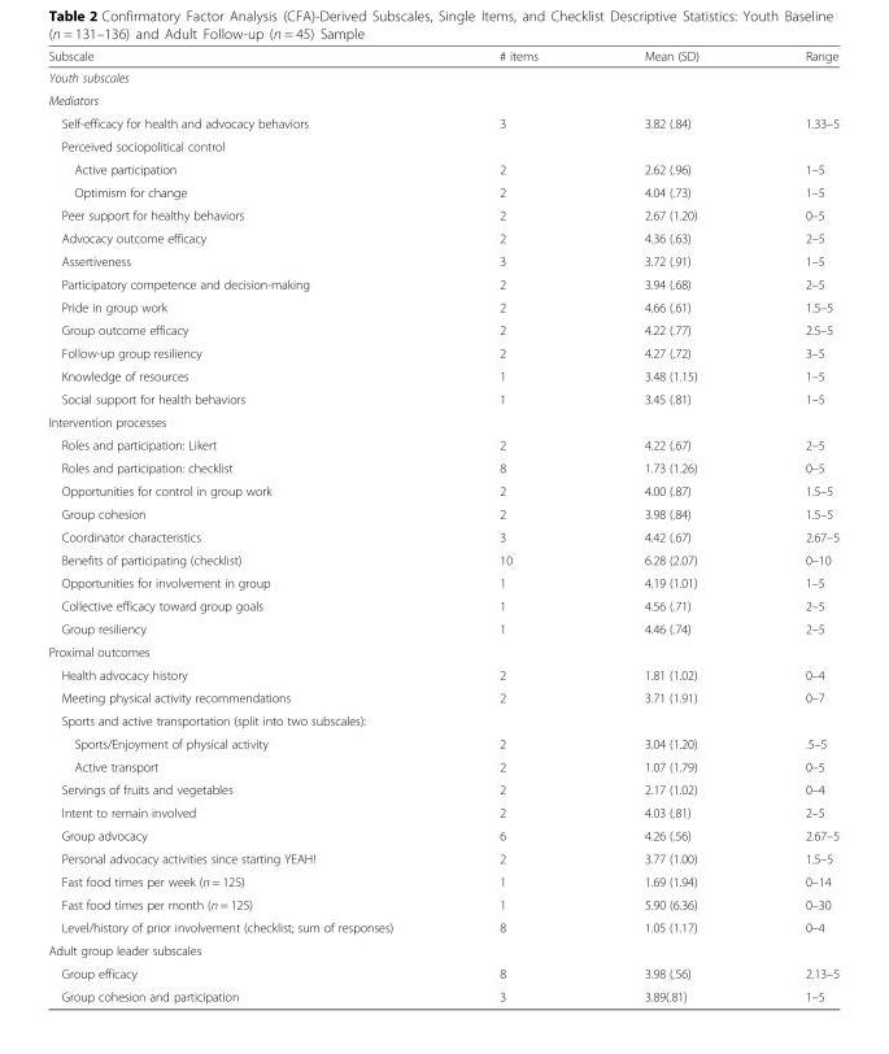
<table><thead><tr><td>Subscale</td><td># items</td><td>Mean (SD)</td><td>Range</td></tr></thead><tbody><tr><td colspan="4">Youth subscales</td></tr><tr><td colspan="4">Mediators</td></tr><tr><td>Self-efficacy for health and advocacy behaviors</td><td>3</td><td>3.82 (.84)</td><td>1.33–5</td></tr><tr><td colspan="4">Perceived sociopolitical control</td></tr><tr><td>Active participation</td><td>2</td><td>2.62 (.96)</td><td>1–5</td></tr><tr><td>Optimism for change</td><td>2</td><td>4.04 (.73)</td><td>1–5</td></tr><tr><td>Peer support for healthy behaviors</td><td>2</td><td>2.67 (1.20)</td><td>0–5</td></tr><tr><td>Advocacy outcome efficacy</td><td>2</td><td>4.36 (.63)</td><td>2–5</td></tr><tr><td>Assertiveness</td><td>3</td><td>3.72 (.91)</td><td>1–5</td></tr><tr><td>Participatory competence and decision-making</td><td>2</td><td>3.94 (.68)</td><td>2–5</td></tr><tr><td>Pride in group work</td><td>2</td><td>4.66 (.61)</td><td>1.5–5</td></tr><tr><td>Group outcome efficacy</td><td>2</td><td>4.22 (.77)</td><td>2.5–5</td></tr><tr><td>Follow-up group resiliency</td><td>2</td><td>4.27 (.72)</td><td>3–5</td></tr><tr><td>Knowledge of resources</td><td>1</td><td>3.48 (1.15)</td><td>1–5</td></tr><tr><td>Social support for health behaviors</td><td>1</td><td>3.45 (.81)</td><td>1–5</td></tr><tr><td colspan="4">Intervention processes</td></tr><tr><td>Roles and participation: Likert</td><td>2</td><td>4.22 (.67)</td><td>2–5</td></tr><tr><td>Roles and participation: checklist</td><td>8</td><td>1.73 (1.26)</td><td>0–5</td></tr><tr><td>Opportunities for control in group work</td><td>2</td><td>4.00 (.87)</td><td>1.5–5</td></tr><tr><td>Group cohesion</td><td>2</td><td>3.98 (.84)</td><td>1.5–5</td></tr><tr><td>Coordinator characteristics</td><td>3</td><td>4.42 (.67)</td><td>2.67–5</td></tr><tr><td>Benefits of participating (checklist)</td><td>10</td><td>6.28 (2.07)</td><td>0–10</td></tr><tr><td>Opportunities for involvement in group</td><td>1</td><td>4.19 (1.01)</td><td>1–5</td></tr><tr><td>Collective efficacy toward group goals</td><td>1</td><td>4.56 (.71)</td><td>2–5</td></tr><tr><td>Group resiliency</td><td>1</td><td>4.46 (.74)</td><td>2–5</td></tr><tr><td colspan="4">Proximal outcomes</td></tr><tr><td>Health advocacy history</td><td>2</td><td>1.81 (1.02)</td><td>0–4</td></tr><tr><td>Meeting physical activity recommendations</td><td>2</td><td>3.71 (1.91)</td><td>0–7</td></tr><tr><td colspan="4">Sports and active transportation (split into two subscales):</td></tr><tr><td>Sports/Enjoyment of physical activity</td><td>2</td><td>3.04 (1.20)</td><td>.5–5</td></tr><tr><td>Active transport</td><td>2</td><td>1.07 (1.79)</td><td>0–5</td></tr><tr><td>Servings of fruits and vegetables</td><td>2</td><td>2.17 (1.02)</td><td>0–4</td></tr><tr><td>Intent to remain involved</td><td>2</td><td>4.03 (.81)</td><td>2–5</td></tr><tr><td>Group advocacy</td><td>6</td><td>4.26 (.56)</td><td>2.67–5</td></tr><tr><td>Personal advocacy activities since starting YEAH!</td><td>2</td><td>3.77 (1.00)</td><td>1.5–5</td></tr><tr><td>Fast food times per week (n = 125)</td><td>1</td><td>1.69 (1.94)</td><td>0–14</td></tr><tr><td>Fast food times per month (n = 125)</td><td>1</td><td>5.90 (6.36)</td><td>0–30</td></tr><tr><td>Level/history of prior involvement (checklist; sum of responses)</td><td>8</td><td>1.05 (1.17)</td><td>0–4</td></tr><tr><td colspan="4">Adult group leader subscales</td></tr><tr><td>Group efficacy</td><td>8</td><td>3.98 (.56)</td><td>2.13–5</td></tr><tr><td>Group cohesion and participation</td><td>3</td><td>3.89(.81)</td><td>1–5</td></tr></tbody></table>